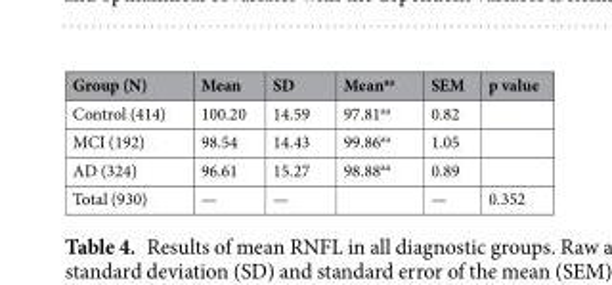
<table><thead><tr><td>Group (N)</td><td>Mean</td><td>SD</td><td>Mean<sup>aa</sup></td><td>SEM</td><td>p value</td></tr></thead><tbody><tr><td>Control (414)</td><td>100.20</td><td>14.59</td><td>97.81<sup>aa</sup></td><td>0.82</td><td></td></tr><tr><td>MCI (192)</td><td>98.54</td><td>14.43</td><td>99.86<sup>aa</sup></td><td>1.05</td><td></td></tr><tr><td>AD (324)</td><td>96.61</td><td>15.27</td><td>98.88<sup>aa</sup></td><td>0.89</td><td></td></tr><tr><td>Total (930)</td><td>—</td><td>—</td><td></td><td>—</td><td>0.352</td></tr></tbody></table>